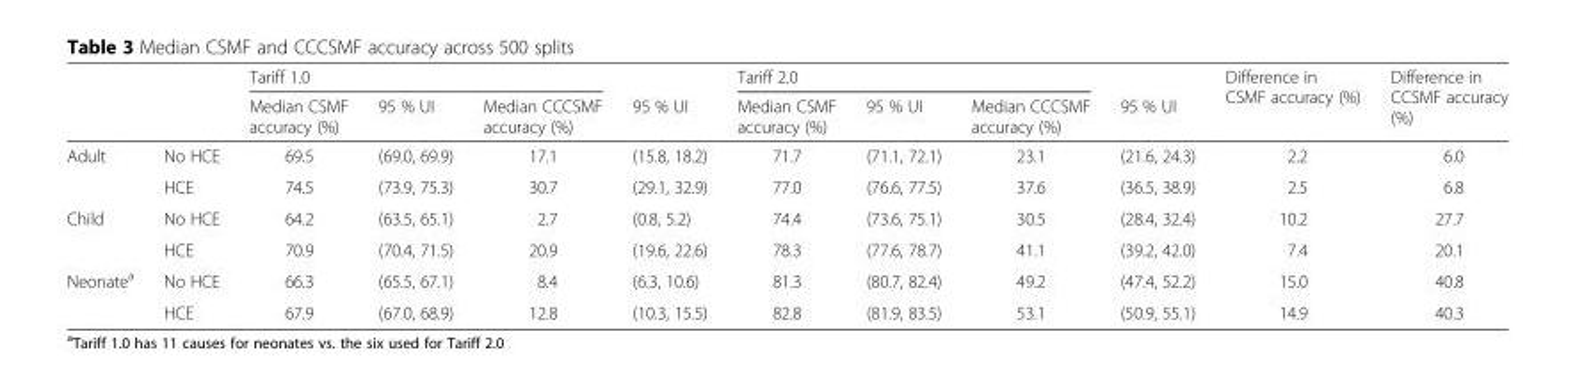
<table><thead><tr><td rowspan="2"></td><td rowspan="2"></td><td colspan="3">Tariff 1.0</td><td rowspan="2">95 % UI</td><td colspan="3">Tariff 2.0</td><td rowspan="2">95 % UI</td><td rowspan="2">Difference in CSMF accuracy (%)</td><td rowspan="2">Difference in CCSMF accuracy (%)</td></tr><tr><td>Median CSMF accuracy (%)</td><td>95 % UI</td><td>Median CCCSMF accuracy (%)</td><td>Median CSMF accuracy (%)</td><td>95 % UI</td><td>Median CCCSMF accuracy (%)</td></tr></thead><tbody><tr><td rowspan="2">Adult</td><td>No HCE</td><td>69.5</td><td>(69.0, 69.9)</td><td>17.1</td><td>(15.8, 18.2)</td><td>71.7</td><td>(71.1, 72.1)</td><td>23.1</td><td>(21.6, 24.3)</td><td>2.2</td><td>6.0</td></tr><tr><td>HCE</td><td>74.5</td><td>(73.9, 75.3)</td><td>30.7</td><td>(29.1, 32.9)</td><td>77.0</td><td>(76.6, 77.5)</td><td>37.6</td><td>(36.5, 38.9)</td><td>2.5</td><td>6.8</td></tr><tr><td rowspan="2">Child</td><td>No HCE</td><td>64.2</td><td>(63.5, 65.1)</td><td>2.7</td><td>(0.8, 5.2)</td><td>74.4</td><td>(73.6, 75.1)</td><td>30.5</td><td>(28.4, 32.4)</td><td>10.2</td><td>27.7</td></tr><tr><td>HCE</td><td>70.9</td><td>(70.4, 71.5)</td><td>20.9</td><td>(19.6, 22.6)</td><td>78.3</td><td>(77.6, 78.7)</td><td>41.1</td><td>(39.2, 42.0)</td><td>7.4</td><td>20.1</td></tr><tr><td rowspan="2">Neonate<sup>a</sup></td><td>No HCE</td><td>66.3</td><td>(65.5, 67.1)</td><td>8.4</td><td>(6.3, 10.6)</td><td>81.3</td><td>(80.7, 82.4)</td><td>49.2</td><td>(47.4, 52.2)</td><td>15.0</td><td>40.8</td></tr><tr><td>HCE</td><td>67.9</td><td>(67.0, 68.9)</td><td>12.8</td><td>(10.3, 15.5)</td><td>82.8</td><td>(81.9, 83.5)</td><td>53.1</td><td>(50.9, 55.1)</td><td>14.9</td><td>40.3</td></tr></tbody></table>